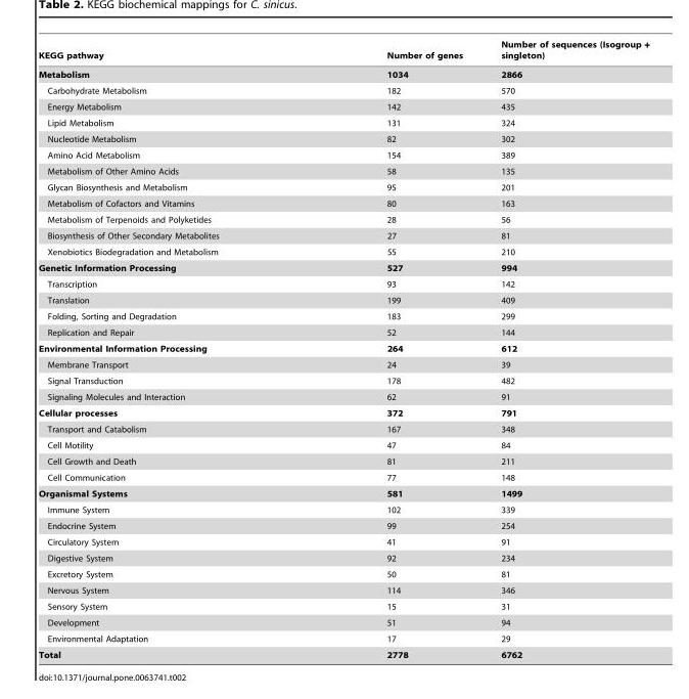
<table><thead><tr><td>KEGG pathway</td><td>Number of genes</td><td>Number of sequences (Isogroup + singleton)</td></tr></thead><tbody><tr><td>Metabolism</td><td>1034</td><td>2866</td></tr><tr><td>Carbohydrate Metabolism</td><td>182</td><td>570</td></tr><tr><td>Energy Metabolism</td><td>142</td><td>435</td></tr><tr><td>Lipid Metabolism</td><td>131</td><td>324</td></tr><tr><td>Nucleotide Metabolism</td><td>82</td><td>302</td></tr><tr><td>Amino Acid Metabolism</td><td>154</td><td>389</td></tr><tr><td>Metabolism of Other Amino Acids</td><td>58</td><td>135</td></tr><tr><td>Glycan Biosynthesis and Metabolism</td><td>95</td><td>201</td></tr><tr><td>Metabolism of Cofactors and Vitamins</td><td>80</td><td>163</td></tr><tr><td>Metabolism of Terpenoids and Polyketides</td><td>28</td><td>56</td></tr><tr><td>Biosynthesis of Other Secondary Metabolites</td><td>27</td><td>81</td></tr><tr><td>Xenobiotics Biodegradation and Metabolism</td><td>55</td><td>210</td></tr><tr><td>Genetic Information Processing</td><td>527</td><td>994</td></tr><tr><td>Transcription</td><td>93</td><td>142</td></tr><tr><td>Translation</td><td>199</td><td>409</td></tr><tr><td>Folding, Sorting and Degradation</td><td>183</td><td>299</td></tr><tr><td>Replication and Repair</td><td>52</td><td>144</td></tr><tr><td>Environmental Information Processing</td><td>264</td><td>612</td></tr><tr><td>Membrane Transport</td><td>24</td><td>39</td></tr><tr><td>Signal Transduction</td><td>178</td><td>482</td></tr><tr><td>Signaling Molecules and Interaction</td><td>62</td><td>91</td></tr><tr><td>Cellular processes</td><td>372</td><td>791</td></tr><tr><td>Transport and Catabolism</td><td>167</td><td>348</td></tr><tr><td>Cell Motility</td><td>47</td><td>84</td></tr><tr><td>Cell Growth and Death</td><td>81</td><td>211</td></tr><tr><td>Cell Communication</td><td>77</td><td>148</td></tr><tr><td>Organismal Systems</td><td>581</td><td>1499</td></tr><tr><td>Immune System</td><td>102</td><td>339</td></tr><tr><td>Endocrine System</td><td>99</td><td>254</td></tr><tr><td>Circulatory System</td><td>41</td><td>91</td></tr><tr><td>Digestive System</td><td>92</td><td>234</td></tr><tr><td>Excretory System</td><td>50</td><td>81</td></tr><tr><td>Nervous System</td><td>114</td><td>346</td></tr><tr><td>Sensory System</td><td>15</td><td>31</td></tr><tr><td>Development</td><td>51</td><td>94</td></tr><tr><td>Environmental Adaptation</td><td>17</td><td>29</td></tr><tr><td>Total</td><td>2778</td><td>6762</td></tr></tbody></table>